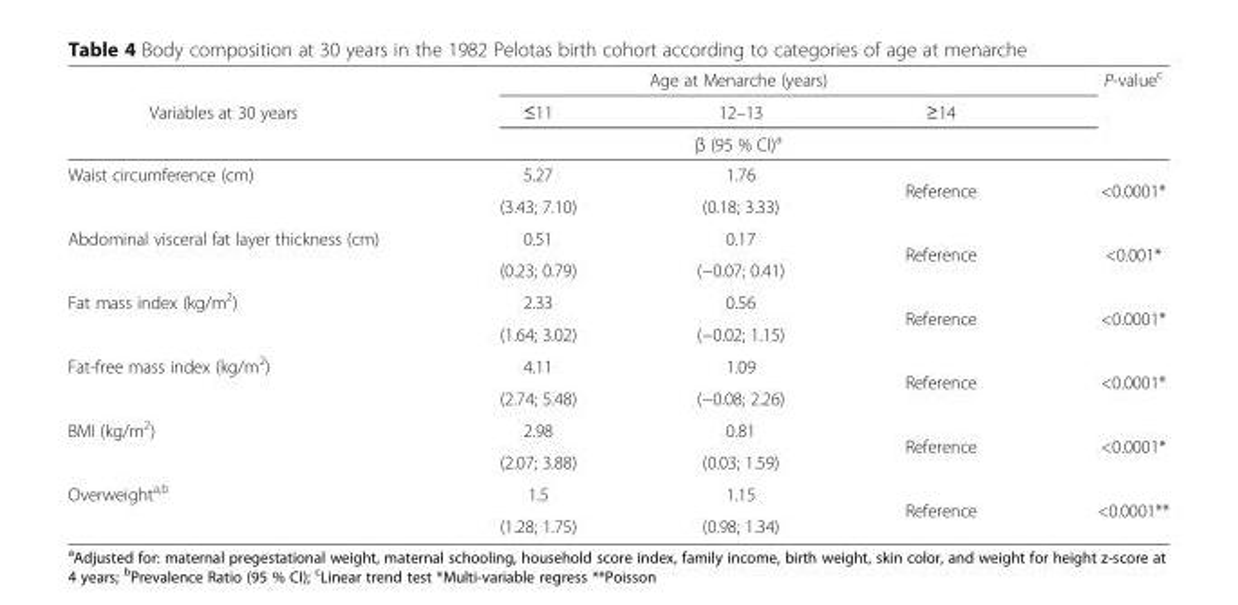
<table><thead><tr><td rowspan="3">Variables at 30 years</td><td colspan="3">Age at Menarche (years)</td><td rowspan="3">P-value<sup>c</sup></td></tr><tr><td>≤11</td><td>12–13</td><td>≥14</td></tr><tr><td colspan="3">β (95 % CI)<sup>a</sup></td></tr></thead><tbody><tr><td rowspan="2">Waist circumference (cm)</td><td>5.27</td><td>1.76</td><td rowspan="2">Reference</td><td rowspan="2">&lt;0.0001*</td></tr><tr><td>(3.43; 7.10)</td><td>(0.18; 3.33)</td></tr><tr><td rowspan="2">Abdominal visceral fat layer thickness (cm)</td><td>0.51</td><td>0.17</td><td rowspan="2">Reference</td><td rowspan="2">&lt;0.001*</td></tr><tr><td>(0.23; 0.79)</td><td>(−0.07; 0.41)</td></tr><tr><td rowspan="2">Fat mass index (kg/m<sup>2</sup>)</td><td>2.33</td><td>0.56</td><td rowspan="2">Reference</td><td rowspan="2">&lt;0.0001*</td></tr><tr><td>(1.64; 3.02)</td><td>(−0.02; 1.15)</td></tr><tr><td rowspan="2">Fat-free mass index (kg/m<sup>2</sup>)</td><td>4.11</td><td>1.09</td><td rowspan="2">Reference</td><td rowspan="2">&lt;0.0001*</td></tr><tr><td>(2.74; 5.48)</td><td>(−0.08; 2.26)</td></tr><tr><td rowspan="2">BMI (kg/m<sup>2</sup>)</td><td>2.98</td><td>0.81</td><td rowspan="2">Reference</td><td rowspan="2">&lt;0.0001*</td></tr><tr><td>(2.07; 3.88)</td><td>(0.03; 1.59)</td></tr><tr><td rowspan="2">Overweight<sup>a,b</sup></td><td>1.5</td><td>1.15</td><td rowspan="2">Reference</td><td rowspan="2">&lt;0.0001**</td></tr><tr><td>(1.28; 1.75)</td><td>(0.98; 1.34)</td></tr></tbody></table>